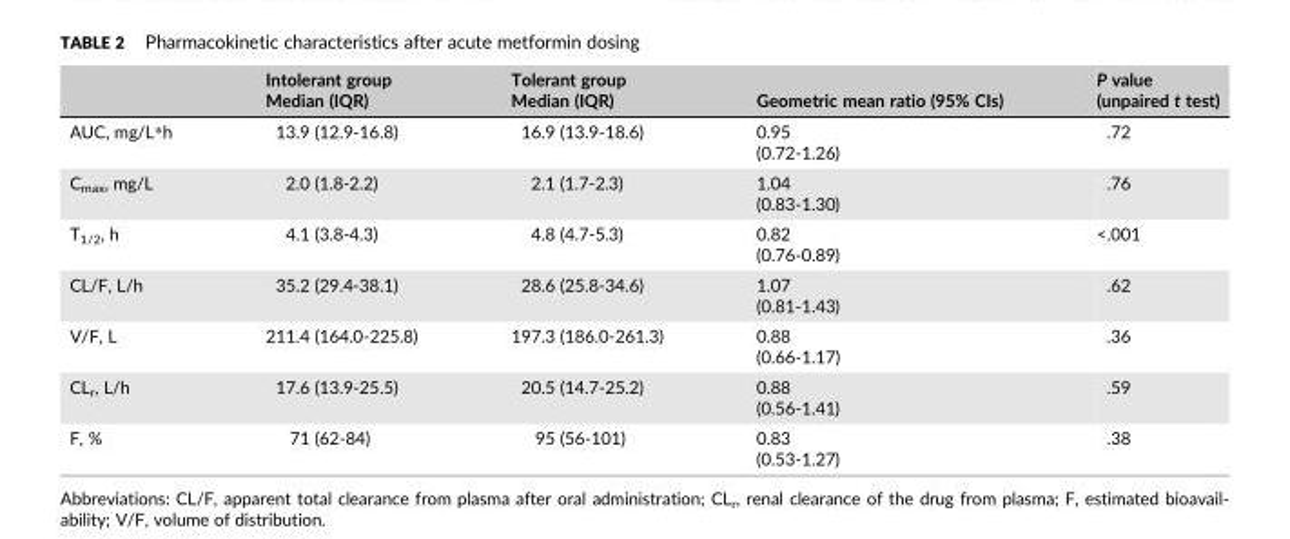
<table><thead><tr><td></td><td>Intolerant group Median (IQR)</td><td>Tolerant group Median (IQR)</td><td>Geometric mean ratio (95% CIs)</td><td>P value (unpaired t test)</td></tr></thead><tbody><tr><td>AUC, mg/L*h</td><td>13.9 (12.9-16.8)</td><td>16.9 (13.9-18.6)</td><td>0.95 (0.72-1.26)</td><td>.72</td></tr><tr><td>C<sub>max</sub>, mg/L</td><td>2.0 (1.8-2.2)</td><td>2.1 (1.7-2.3)</td><td>1.04 (0.83-1.30)</td><td>.76</td></tr><tr><td>T<sub>1/2</sub>, h</td><td>4.1 (3.8-4.3)</td><td>4.8 (4.7-5.3)</td><td>0.82 (0.76-0.89)</td><td>&lt;.001</td></tr><tr><td>CL/F, L/h</td><td>35.2 (29.4-38.1)</td><td>28.6 (25.8-34.6)</td><td>1.07 (0.81-1.43)</td><td>.62</td></tr><tr><td>V/F, L</td><td>211.4 (164.0-225.8)</td><td>197.3 (186.0-261.3)</td><td>0.88 (0.66-1.17)</td><td>.36</td></tr><tr><td>CL<sub>r</sub>, L/h</td><td>17.6 (13.9-25.5)</td><td>20.5 (14.7-25.2)</td><td>0.88 (0.56-1.41)</td><td>.59</td></tr><tr><td>F, %</td><td>71 (62-84)</td><td>95 (56-101)</td><td>0.83 (0.53-1.27)</td><td>.38</td></tr></tbody></table>